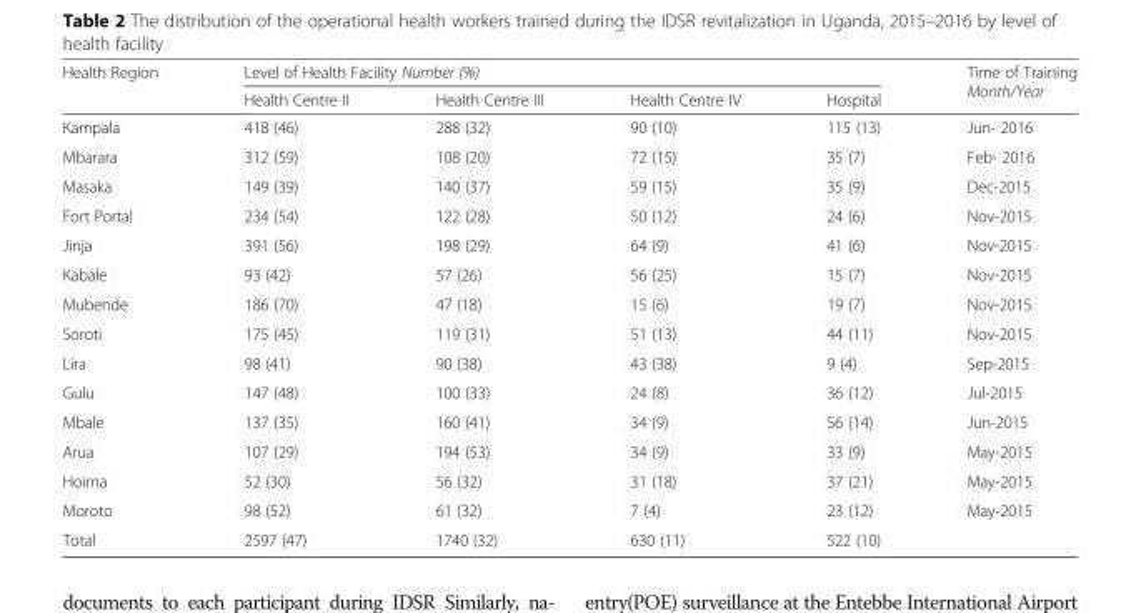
<table><thead><tr><td rowspan="2">Health Region</td><td colspan="4">Level of Health Facility Number (%)</td><td rowspan="2">Time of Training Month/Year</td></tr><tr><td>Health Centre II</td><td>Health Centre III</td><td>Health Centre IV</td><td>Hospital</td></tr></thead><tbody><tr><td>Kampala</td><td>418 (46)</td><td>288 (32)</td><td>90 (10)</td><td>115 (13)</td><td>Jun- 2016</td></tr><tr><td>Mbarara</td><td>312 (59)</td><td>108 (20)</td><td>72 (15)</td><td>35 (7)</td><td>Feb- 2016</td></tr><tr><td>Masaka</td><td>149 (39)</td><td>140 (37)</td><td>59 (15)</td><td>35 (9)</td><td>Dec-2015</td></tr><tr><td>Fort Portal</td><td>234 (54)</td><td>122 (28)</td><td>50 (12)</td><td>24 (6)</td><td>Nov-2015</td></tr><tr><td>Jinja</td><td>391 (56)</td><td>198 (29)</td><td>64 (9)</td><td>41 (6)</td><td>Nov-2015</td></tr><tr><td>Kabale</td><td>93 (42)</td><td>57 (26)</td><td>56 (25)</td><td>15 (7)</td><td>Nov-2015</td></tr><tr><td>Mubende</td><td>186 (70)</td><td>47 (18)</td><td>15 (6)</td><td>19 (7)</td><td>Nov-2015</td></tr><tr><td>Soroti</td><td>175 (45)</td><td>119 (31)</td><td>51 (13)</td><td>44 (11)</td><td>Nov-2015</td></tr><tr><td>Lira</td><td>98 (41)</td><td>90 (38)</td><td>43 (38)</td><td>9 (4)</td><td>Sep-2015</td></tr><tr><td>Gulu</td><td>147 (48)</td><td>100 (33)</td><td>24 (8)</td><td>36 (12)</td><td>Jul-2015</td></tr><tr><td>Mbale</td><td>137 (35)</td><td>160 (41)</td><td>34 (9)</td><td>56 (14)</td><td>Jun-2015</td></tr><tr><td>Arua</td><td>107 (29)</td><td>194 (53)</td><td>34 (9)</td><td>33 (9)</td><td>May-2015</td></tr><tr><td>Hoima</td><td>52 (30)</td><td>56 (32)</td><td>31 (18)</td><td>37 (21)</td><td>May-2015</td></tr><tr><td>Moroto</td><td>98 (52)</td><td>61 (32)</td><td>7 (4)</td><td>23 (12)</td><td>May-2015</td></tr><tr><td>Total</td><td>2597 (47)</td><td>1740 (32)</td><td>630 (11)</td><td>522 (10)</td><td></td></tr></tbody></table>